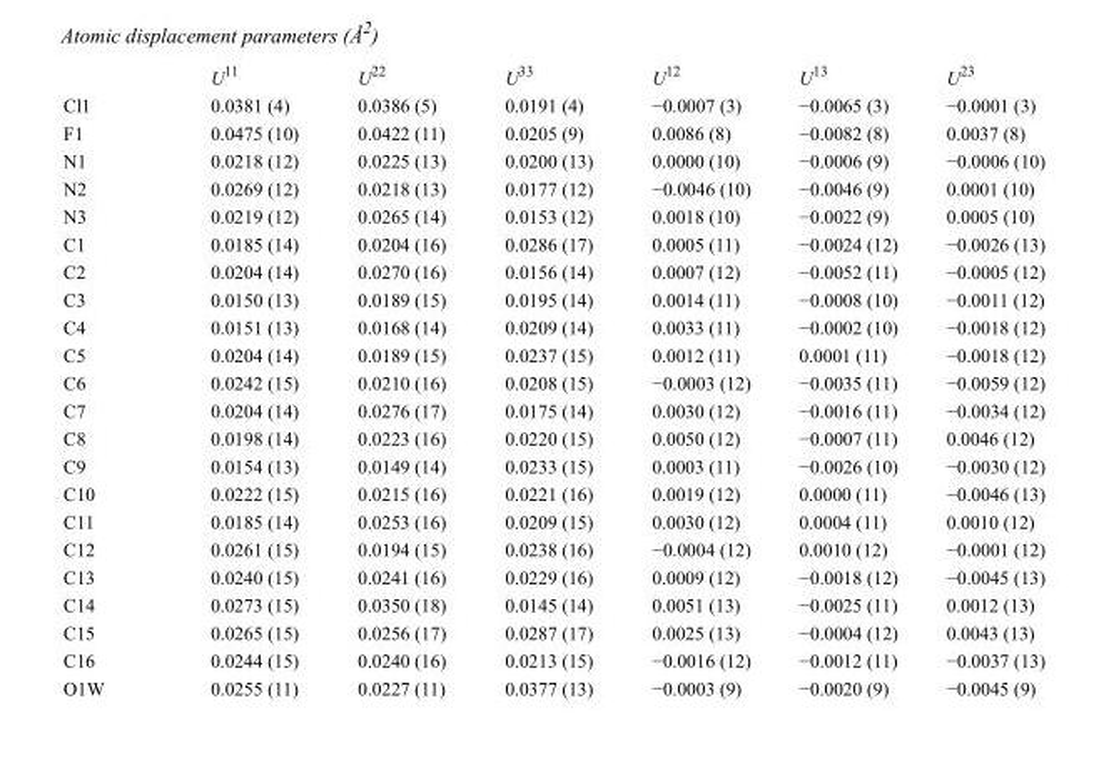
<table><thead><tr><td></td><td>U<sup>11</sup></td><td>U<sup>22</sup></td><td>U<sup>33</sup></td><td>U<sup>12</sup></td><td>U<sup>13</sup></td><td>U<sup>23</sup></td></tr></thead><tbody><tr><td>Cl1</td><td>0.0381 (4)</td><td>0.0386 (5)</td><td>0.0191 (4)</td><td>−0.0007 (3)</td><td>−0.0065 (3)</td><td>−0.0001 (3)</td></tr><tr><td>F1</td><td>0.0475 (10)</td><td>0.0422 (11)</td><td>0.0205 (9)</td><td>0.0086 (8)</td><td>−0.0082 (8)</td><td>0.0037 (8)</td></tr><tr><td>N1</td><td>0.0218 (12)</td><td>0.0225 (13)</td><td>0.0200 (13)</td><td>0.0000 (10)</td><td>−0.0006 (9)</td><td>−0.0006 (10)</td></tr><tr><td>N2</td><td>0.0269 (12)</td><td>0.0218 (13)</td><td>0.0177 (12)</td><td>−0.0046 (10)</td><td>−0.0046 (9)</td><td>0.0001 (10)</td></tr><tr><td>N3</td><td>0.0219 (12)</td><td>0.0265 (14)</td><td>0.0153 (12)</td><td>0.0018 (10)</td><td>−0.0022 (9)</td><td>0.0005 (10)</td></tr><tr><td>C1</td><td>0.0185 (14)</td><td>0.0204 (16)</td><td>0.0286 (17)</td><td>0.0005 (11)</td><td>−0.0024 (12)</td><td>−0.0026 (13)</td></tr><tr><td>C2</td><td>0.0204 (14)</td><td>0.0270 (16)</td><td>0.0156 (14)</td><td>0.0007 (12)</td><td>−0.0052 (11)</td><td>−0.0005 (12)</td></tr><tr><td>C3</td><td>0.0150 (13)</td><td>0.0189 (15)</td><td>0.0195 (14)</td><td>0.0014 (11)</td><td>−0.0008 (10)</td><td>−0.0011 (12)</td></tr><tr><td>C4</td><td>0.0151 (13)</td><td>0.0168 (14)</td><td>0.0209 (14)</td><td>0.0033 (11)</td><td>−0.0002 (10)</td><td>−0.0018 (12)</td></tr><tr><td>C5</td><td>0.0204 (14)</td><td>0.0189 (15)</td><td>0.0237 (15)</td><td>0.0012 (11)</td><td>0.0001 (11)</td><td>−0.0018 (12)</td></tr><tr><td>C6</td><td>0.0242 (15)</td><td>0.0210 (16)</td><td>0.0208 (15)</td><td>−0.0003 (12)</td><td>−0.0035 (11)</td><td>−0.0059 (12)</td></tr><tr><td>C7</td><td>0.0204 (14)</td><td>0.0276 (17)</td><td>0.0175 (14)</td><td>0.0030 (12)</td><td>−0.0016 (11)</td><td>−0.0034 (12)</td></tr><tr><td>C8</td><td>0.0198 (14)</td><td>0.0223 (16)</td><td>0.0220 (15)</td><td>0.0050 (12)</td><td>−0.0007 (11)</td><td>0.0046 (12)</td></tr><tr><td>C9</td><td>0.0154 (13)</td><td>0.0149 (14)</td><td>0.0233 (15)</td><td>0.0003 (11)</td><td>−0.0026 (10)</td><td>−0.0030 (12)</td></tr><tr><td>C10</td><td>0.0222 (15)</td><td>0.0215 (16)</td><td>0.0221 (16)</td><td>0.0019 (12)</td><td>0.0000 (11)</td><td>−0.0046 (13)</td></tr><tr><td>C11</td><td>0.0185 (14)</td><td>0.0253 (16)</td><td>0.0209 (15)</td><td>0.0030 (12)</td><td>0.0004 (11)</td><td>0.0010 (12)</td></tr><tr><td>C12</td><td>0.0261 (15)</td><td>0.0194 (15)</td><td>0.0238 (16)</td><td>−0.0004 (12)</td><td>0.0010 (12)</td><td>−0.0001 (12)</td></tr><tr><td>C13</td><td>0.0240 (15)</td><td>0.0241 (16)</td><td>0.0229 (16)</td><td>0.0009 (12)</td><td>−0.0018 (12)</td><td>−0.0045 (13)</td></tr><tr><td>C14</td><td>0.0273 (15)</td><td>0.0350 (18)</td><td>0.0145 (14)</td><td>0.0051 (13)</td><td>−0.0025 (11)</td><td>0.0012 (13)</td></tr><tr><td>C15</td><td>0.0265 (15)</td><td>0.0256 (17)</td><td>0.0287 (17)</td><td>0.0025 (13)</td><td>−0.0004 (12)</td><td>0.0043 (13)</td></tr><tr><td>C16</td><td>0.0244 (15)</td><td>0.0240 (16)</td><td>0.0213 (15)</td><td>−0.0016 (12)</td><td>−0.0012 (11)</td><td>−0.0037 (13)</td></tr><tr><td>O1W</td><td>0.0255 (11)</td><td>0.0227 (11)</td><td>0.0377 (13)</td><td>−0.0003 (9)</td><td>−0.0020 (9)</td><td>−0.0045 (9)</td></tr></tbody></table>